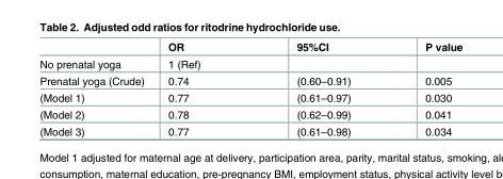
<table><thead><tr><td></td><td>OR</td><td>95%CI</td><td>P value</td></tr></thead><tbody><tr><td>No prenatal yoga</td><td>1 (Ref)</td><td></td><td></td></tr><tr><td>Prenatal yoga (Crude)</td><td>0.74</td><td>(0.60–0.91)</td><td>0.005</td></tr><tr><td>(Model 1)</td><td>0.77</td><td>(0.61–0.97)</td><td>0.030</td></tr><tr><td>(Model 2)</td><td>0.78</td><td>(0.62–0.99)</td><td>0.041</td></tr><tr><td>(Model 3)</td><td>0.77</td><td>(0.61–0.98)</td><td>0.034</td></tr></tbody></table>